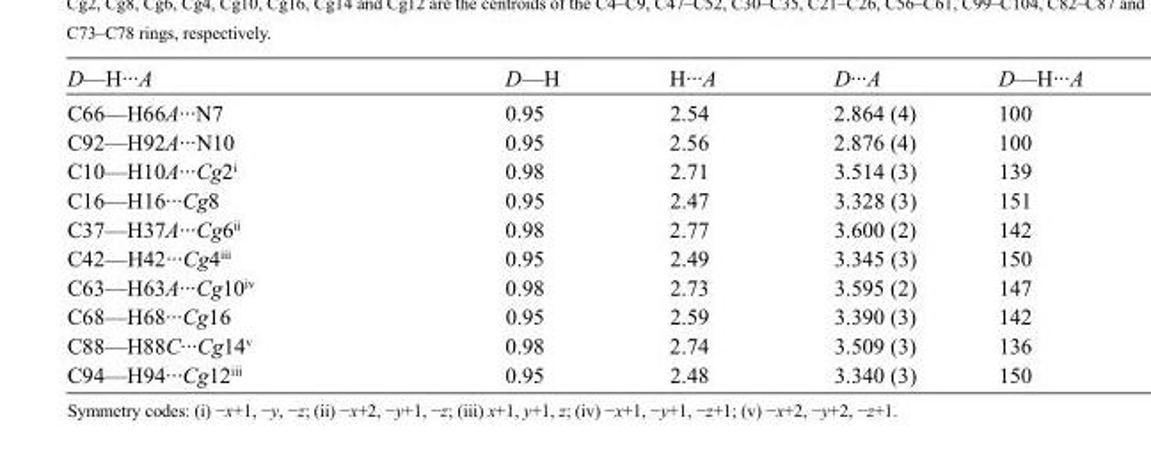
<table><tbody><tr><td>D—H···A</td><td>D—H</td><td>H···A</td><td>D···A</td><td>D—H···A</td></tr><tr><td>C66—H66A···N7</td><td>0.95</td><td>2.54</td><td>2.864 (4)</td><td>100</td></tr><tr><td>C92—H92A···N10</td><td>0.95</td><td>2.56</td><td>2.876 (4)</td><td>100</td></tr><tr><td>C10—H10A···Cg2<sup>i</sup></td><td>0.98</td><td>2.71</td><td>3.514 (3)</td><td>139</td></tr><tr><td>C16—H16···Cg8</td><td>0.95</td><td>2.47</td><td>3.328 (3)</td><td>151</td></tr><tr><td>C37—H37A···Cg6<sup>ii</sup></td><td>0.98</td><td>2.77</td><td>3.600 (2)</td><td>142</td></tr><tr><td>C42—H42···Cg4<sup>iii</sup></td><td>0.95</td><td>2.49</td><td>3.345 (3)</td><td>150</td></tr><tr><td>C63—H63A···Cg10<sup>iv</sup></td><td>0.98</td><td>2.73</td><td>3.595 (2)</td><td>147</td></tr><tr><td>C68—H68···Cg16</td><td>0.95</td><td>2.59</td><td>3.390 (3)</td><td>142</td></tr><tr><td>C88—H88C···Cg14<sup>v</sup></td><td>0.98</td><td>2.74</td><td>3.509 (3)</td><td>136</td></tr><tr><td>C94—H94···Cg12<sup>iii</sup></td><td>0.95</td><td>2.48</td><td>3.340 (3)</td><td>150</td></tr></tbody></table>